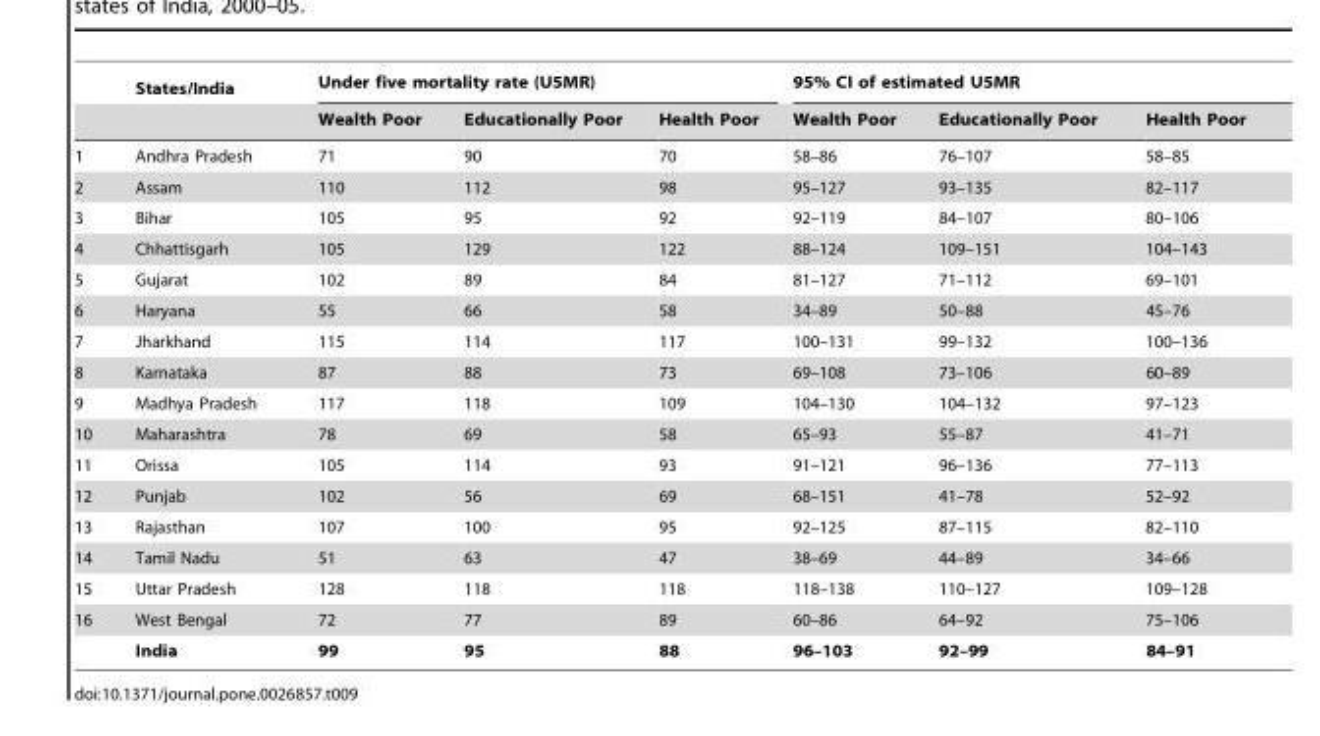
<table><thead><tr><td rowspan="2"></td><td rowspan="2">States/India</td><td colspan="3">Under five mortality rate (U5MR)</td><td colspan="3">95% CI of estimated U5MR</td></tr><tr><td>Wealth Poor</td><td>Educationally Poor</td><td>Health Poor</td><td>Wealth Poor</td><td>Educationally Poor</td><td>Health Poor</td></tr></thead><tbody><tr><td>1</td><td>Andhra Pradesh</td><td>71</td><td>90</td><td>70</td><td>58–86</td><td>76–107</td><td>58–85</td></tr><tr><td>2</td><td>Assam</td><td>110</td><td>112</td><td>98</td><td>95–127</td><td>93–135</td><td>82–117</td></tr><tr><td>3</td><td>Bihar</td><td>105</td><td>95</td><td>92</td><td>92–119</td><td>84–107</td><td>80–106</td></tr><tr><td>4</td><td>Chhattisgarh</td><td>105</td><td>129</td><td>122</td><td>88–124</td><td>109–151</td><td>104–143</td></tr><tr><td>5</td><td>Gujarat</td><td>102</td><td>89</td><td>84</td><td>81–127</td><td>71–112</td><td>69–101</td></tr><tr><td>6</td><td>Haryana</td><td>55</td><td>66</td><td>58</td><td>34–89</td><td>50–88</td><td>45–76</td></tr><tr><td>7</td><td>Jharkhand</td><td>115</td><td>114</td><td>117</td><td>100–131</td><td>99–132</td><td>100–136</td></tr><tr><td>8</td><td>Karnataka</td><td>87</td><td>88</td><td>73</td><td>69–108</td><td>73–106</td><td>60–89</td></tr><tr><td>9</td><td>Madhya Pradesh</td><td>117</td><td>118</td><td>109</td><td>104–130</td><td>104–132</td><td>97–123</td></tr><tr><td>10</td><td>Maharashtra</td><td>78</td><td>69</td><td>58</td><td>65–93</td><td>55–87</td><td>41–71</td></tr><tr><td>11</td><td>Orissa</td><td>105</td><td>114</td><td>93</td><td>91–121</td><td>96–136</td><td>77–113</td></tr><tr><td>12</td><td>Punjab</td><td>102</td><td>56</td><td>69</td><td>68–151</td><td>41–78</td><td>52–92</td></tr><tr><td>13</td><td>Rajasthan</td><td>107</td><td>100</td><td>95</td><td>92–125</td><td>87–115</td><td>82–110</td></tr><tr><td>14</td><td>Tamil Nadu</td><td>51</td><td>63</td><td>47</td><td>38–69</td><td>44–89</td><td>34–66</td></tr><tr><td>15</td><td>Uttar Pradesh</td><td>128</td><td>118</td><td>118</td><td>118–138</td><td>110–127</td><td>109–128</td></tr><tr><td rowspan="2">16</td><td>West Bengal</td><td>72</td><td>77</td><td>89</td><td>60–86</td><td>64–92</td><td>75–106</td></tr><tr><td>India</td><td>99</td><td>95</td><td>88</td><td>96–103</td><td>92–99</td><td>84–91</td></tr></tbody></table>